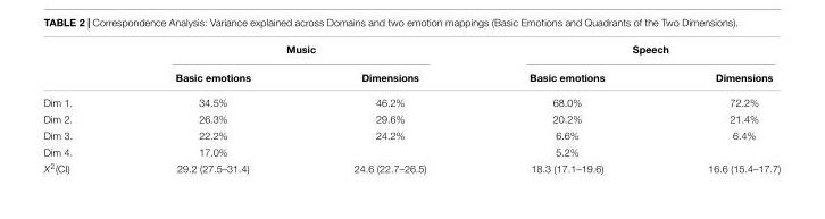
<table><thead><tr><td rowspan="2"></td><td colspan="2">Music</td><td colspan="2">Speech</td></tr><tr><td>Basic emotions</td><td>Dimensions</td><td>Basic emotions</td><td>Dimensions</td></tr></thead><tbody><tr><td>Dim 1.</td><td>34.5%</td><td>46.2%</td><td>68.0%</td><td>72.2%</td></tr><tr><td>Dim 2.</td><td>26.3%</td><td>29.6%</td><td>20.2%</td><td>21.4%</td></tr><tr><td>Dim 3.</td><td>22.2%</td><td>24.2%</td><td>6.6%</td><td>6.4%</td></tr><tr><td>Dim 4.</td><td>17.0%</td><td></td><td>5.2%</td><td></td></tr><tr><td>X<sup>2</sup>(CI)</td><td>29.2 (27.5–31.4)</td><td>24.6 (22.7–26.5)</td><td>18.3 (17.1–19.6)</td><td>16.6 (15.4–17.7)</td></tr></tbody></table>